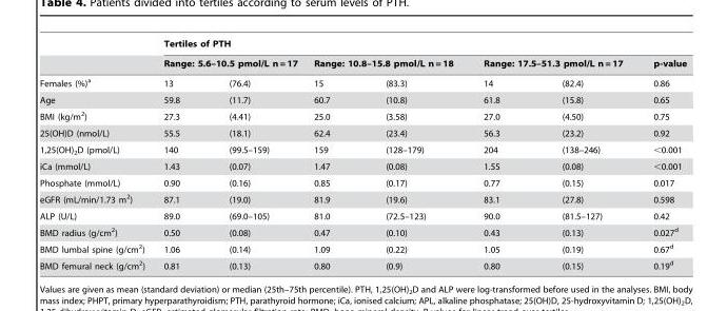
<table><thead><tr><td rowspan="3">Females (%)<sup>a</sup></td><td colspan="7">Tertiles of PTH</td></tr><tr><td colspan="2">Range: 5.6–10.5 pmol/L n = 17</td><td colspan="2">Range: 10.8–15.8 pmol/L n = 18</td><td colspan="2">Range: 17.5–51.3 pmol/L n = 17</td><td rowspan="2">p-value 0.86</td></tr><tr><td>13</td><td>(76.4)</td><td>15</td><td>(83.3)</td><td>14</td><td>(82.4)</td></tr></thead><tbody><tr><td>Age</td><td>59.8</td><td>(11.7)</td><td>60.7</td><td>(10.8)</td><td>61.8</td><td>(15.8)</td><td>0.65</td></tr><tr><td>BMI (kg/m<sup>2</sup>)</td><td>27.3</td><td>(4.41)</td><td>25.0</td><td>(3.58)</td><td>27.0</td><td>(4.50)</td><td>0.75</td></tr><tr><td>25(OH)D (nmol/L)</td><td>55.5</td><td>(18.1)</td><td>62.4</td><td>(23.4)</td><td>56.3</td><td>(23.2)</td><td>0.92</td></tr><tr><td>1,25(OH)<sub>2</sub>D (pmol/L)</td><td>140</td><td>(99.5–159)</td><td>159</td><td>(128–179)</td><td>204</td><td>(138–246)</td><td>&lt;0.001</td></tr><tr><td>iCa (mmol/L)</td><td>1.43</td><td>(0.07)</td><td>1.47</td><td>(0.08)</td><td>1.55</td><td>(0.08)</td><td>&lt;0.001</td></tr><tr><td>Phosphate (mmol/L)</td><td>0.90</td><td>(0.16)</td><td>0.85</td><td>(0.17)</td><td>0.77</td><td>(0.15)</td><td>0.017</td></tr><tr><td>eGFR (mL/min/1.73 m<sup>2</sup>)</td><td>87.1</td><td>(19.0)</td><td>81.9</td><td>(19.6)</td><td>83.1</td><td>(27.8)</td><td>0.598</td></tr><tr><td>ALP (U/L)</td><td>89.0</td><td>(69.0–105)</td><td>81.0</td><td>(72.5–123)</td><td>90.0</td><td>(81.5–127)</td><td>0.42</td></tr><tr><td>BMD radius (g/cm<sup>2</sup>)</td><td>0.50</td><td>(0.08)</td><td>0.47</td><td>(0.10)</td><td>0.43</td><td>(0.13)</td><td>0.027<sup>d</sup></td></tr><tr><td>BMD lumbal spine (g/cm<sup>2</sup>)</td><td>1.06</td><td>(0.14)</td><td>1.09</td><td>(0.22)</td><td>1.05</td><td>(0.19)</td><td>0.67<sup>d</sup></td></tr><tr><td>BMD femural neck (g/cm<sup>2</sup>)</td><td>0.81</td><td>(0.13)</td><td>0.80</td><td>(0.9)</td><td>0.80</td><td>(0.15)</td><td>0.19<sup>d</sup></td></tr></tbody></table>